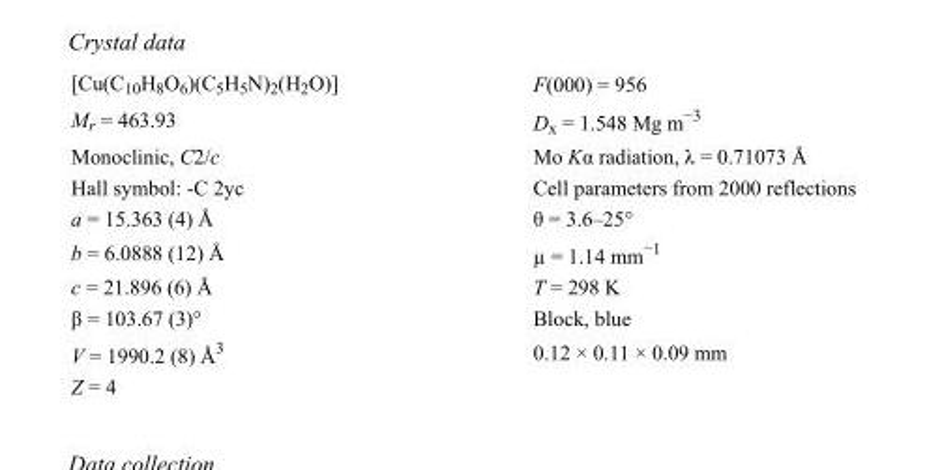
<table><tbody><tr><td>[Cu(C<sub>10</sub>H<sub>8</sub>O<sub>6</sub>)(C<sub>5</sub>H<sub>5</sub>N)<sub>2</sub>(H<sub>2</sub>O)]</td><td>F(000) = 956</td></tr><tr><td>M<sub>r</sub> = 463.93</td><td>D<sub>x</sub> = 1.548 Mg m<sup>−3</sup></td></tr><tr><td>Monoclinic, C2/c</td><td>Mo Kα radiation, λ = 0.71073 Å</td></tr><tr><td>Hall symbol: -C 2yc</td><td>Cell parameters from 2000 reflections</td></tr><tr><td>a = 15.363 (4) Å</td><td>θ = 3.6–25°</td></tr><tr><td>b = 6.0888 (12) Å</td><td>µ = 1.14 mm<sup>−1</sup></td></tr><tr><td>c = 21.896 (6) Å</td><td>T = 298 K</td></tr><tr><td>β = 103.67 (3)°</td><td>Block, blue</td></tr><tr><td>V = 1990.2 (8) Å<sup>3</sup></td><td>0.12 × 0.11 × 0.09 mm</td></tr><tr><td>Z = 4</td><td></td></tr></tbody></table>